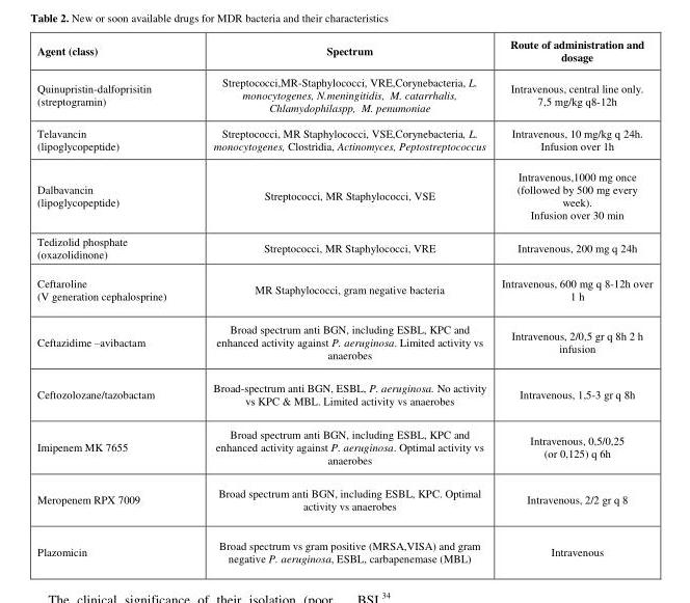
<table><thead><tr><td>Agent (class)</td><td>Spectrum</td><td>Route of administration and dosage</td></tr></thead><tbody><tr><td>Quinupristin-dalfoprisitin (streptogramin)</td><td>Streptococci,MR-Staphylococci, VRE,Corynebacteria, L. monocytogenes, N.meningitidis, M. catarrhalis, Chlamydophilaspp, M. penumoniae</td><td>Intravenous, central line only. 7,5 mg/kg q8-12h</td></tr><tr><td>Telavancin (lipoglycopeptide)</td><td>Streptococci, MR Staphylococci, VSE,Corynebacteria, L. monocytogenes, Clostridia, Actinomyces, Peptostreptococcus</td><td>Intravenous, 10 mg/kg q 24h. Infusion over 1h</td></tr><tr><td>Dalbavancin (lipoglycopeptide)</td><td>Streptococci, MR Staphylococci, VSE</td><td>Intravenous,1000 mg once (followed by 500 mg every week). Infusion over 30 min</td></tr><tr><td>Tedizolid phosphate (oxazolidinone)</td><td>Streptococci, MR Staphylococci, VRE</td><td>Intravenous, 200 mg q 24h</td></tr><tr><td>Ceftaroline (V generation cephalosprine)</td><td>MR Staphylococci, gram negative bacteria</td><td>Intravenous, 600 mg q 8-12h over 1 h</td></tr><tr><td>Ceftazidime –avibactam</td><td>Broad spectrum anti BGN, including ESBL, KPC and enhanced activity against P. aeruginosa. Limited activity vs anaerobes</td><td>Intravenous, 2/0,5 gr q 8h 2 h infusion</td></tr><tr><td>Ceftozolozane/tazobactam</td><td>Broad-spectrum anti BGN, ESBL, P. aeruginosa. No activity vs KPC &amp; MBL. Limited activity vs anaerobes</td><td>Intravenous, 1,5-3 gr q 8h</td></tr><tr><td>Imipenem MK 7655</td><td>Broad spectrum anti BGN, including ESBL, KPC and enhanced activity against P. aeruginosa. Optimal activity vs anaerobes</td><td>Intravenous, 0,5/0,25 (or 0,125) q 6h</td></tr><tr><td>Meropenem RPX 7009</td><td>Broad spectrum anti BGN, including ESBL, KPC. Optimal activity vs anaerobes</td><td>Intravenous, 2/2 gr q 8</td></tr><tr><td>Plazomicin</td><td>Broad spectrum vs gram positive (MRSA,VISA) and gram negative P. aeruginosa, ESBL, carbapenemase (MBL)</td><td>Intravenous</td></tr></tbody></table>